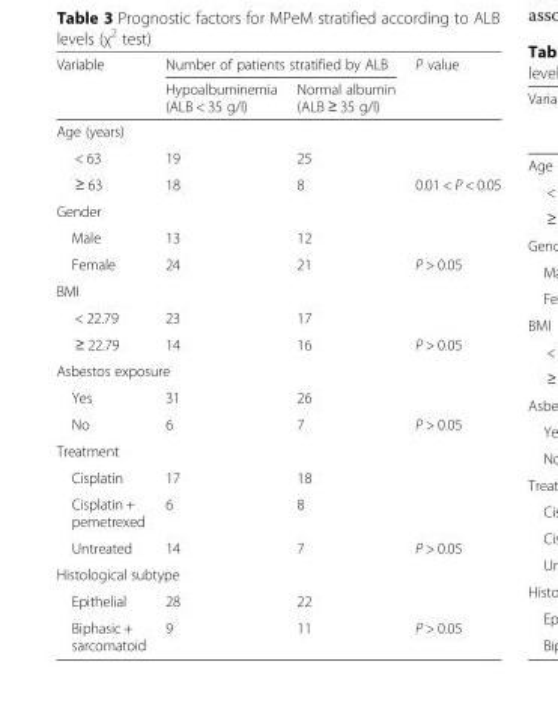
<table><thead><tr><td rowspan="2">Variable</td><td colspan="2">Number of patients stratified by ALB</td><td rowspan="2">P value</td></tr><tr><td>Hypoalbuminemia (ALB &lt; 35 g/l)</td><td>Normal albumin (ALB ≥ 35 g/l)</td></tr></thead><tbody><tr><td colspan="4">Age (years)</td></tr><tr><td>&lt; 63</td><td>19</td><td>25</td><td></td></tr><tr><td>≥ 63</td><td>18</td><td>8</td><td>0.01 &lt; P &lt; 0.05</td></tr><tr><td colspan="4">Gender</td></tr><tr><td>Male</td><td>13</td><td>12</td><td></td></tr><tr><td>Female</td><td>24</td><td>21</td><td>P &gt; 0.05</td></tr><tr><td colspan="4">BMI</td></tr><tr><td>&lt; 22.79</td><td>23</td><td>17</td><td></td></tr><tr><td>≥ 22.79</td><td>14</td><td>16</td><td>P &gt; 0.05</td></tr><tr><td colspan="4">Asbestos exposure</td></tr><tr><td>Yes</td><td>31</td><td>26</td><td></td></tr><tr><td>No</td><td>6</td><td>7</td><td>P &gt; 0.05</td></tr><tr><td colspan="4">Treatment</td></tr><tr><td>Cisplatin</td><td>17</td><td>18</td><td></td></tr><tr><td>Cisplatin + pemetrexed</td><td>6</td><td>8</td><td></td></tr><tr><td>Untreated</td><td>14</td><td>7</td><td>P &gt; 0.05</td></tr><tr><td colspan="4">Histological subtype</td></tr><tr><td>Epithelial</td><td>28</td><td>22</td><td></td></tr><tr><td>Biphasic + sarcomatoid</td><td>9</td><td>11</td><td>P &gt; 0.05</td></tr></tbody></table>